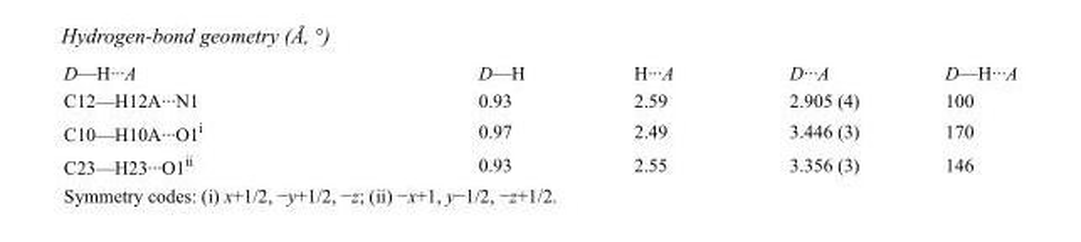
<table><tbody><tr><td>D—H···A</td><td>D—H</td><td>H···A</td><td>D···A</td><td>D—H···A</td></tr><tr><td>C12—H12A···N1</td><td>0.93</td><td>2.59</td><td>2.905 (4)</td><td>100</td></tr><tr><td>C10—H10A···O1<sup>i</sup></td><td>0.97</td><td>2.49</td><td>3.446 (3)</td><td>170</td></tr><tr><td>C23—H23···O1<sup>ii</sup></td><td>0.93</td><td>2.55</td><td>3.356 (3)</td><td>146</td></tr></tbody></table>